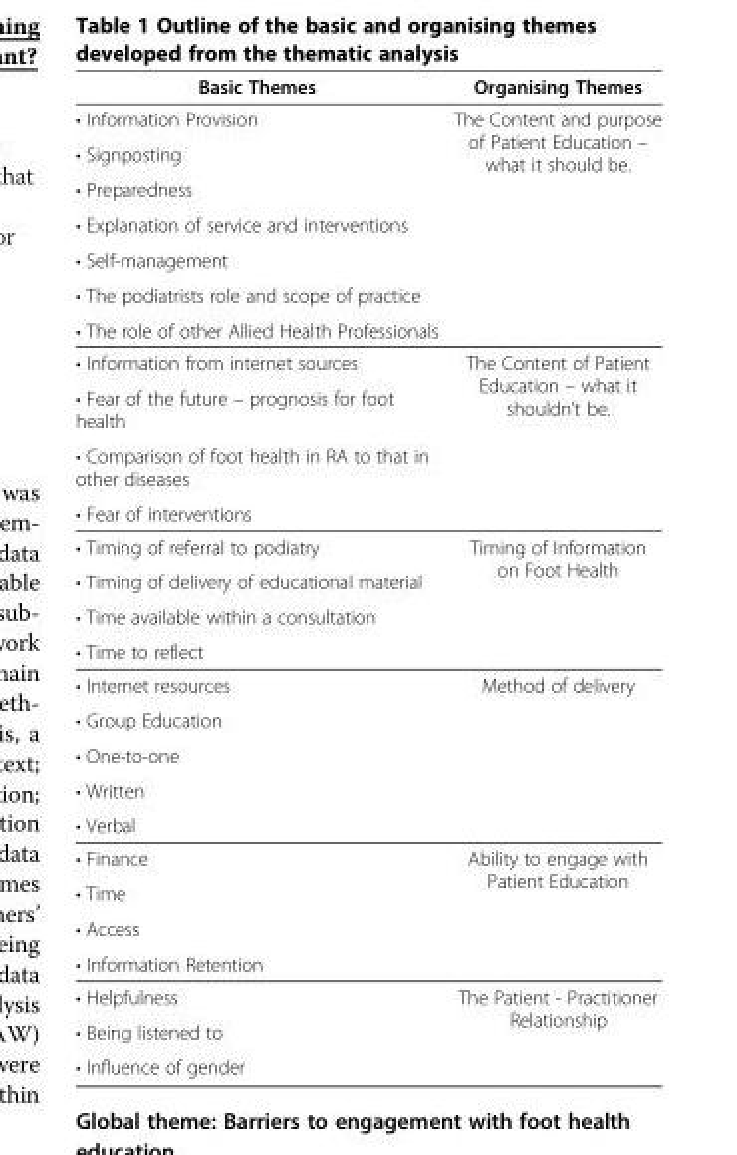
<table><thead><tr><td>Basic Themes</td><td>Organising Themes</td></tr></thead><tbody><tr><td>• Information Provision</td><td rowspan="7">The Content and purpose of Patient Education – what it should be.</td></tr><tr><td>• Signposting</td></tr><tr><td>• Preparedness</td></tr><tr><td>• Explanation of service and interventions</td></tr><tr><td>• Self-management</td></tr><tr><td>• The podiatrists role and scope of practice</td></tr><tr><td>• The role of other Allied Health Professionals</td></tr><tr><td>• Information from internet sources</td><td rowspan="4">The Content of Patient Education – what it shouldn’t be.</td></tr><tr><td>• Fear of the future – prognosis for foot health</td></tr><tr><td>• Comparison of foot health in RA to that in other diseases</td></tr><tr><td>• Fear of interventions</td></tr><tr><td>• Timing of referral to podiatry</td><td rowspan="4">Timing of Information on Foot Health</td></tr><tr><td>• Timing of delivery of educational material</td></tr><tr><td>• Time available within a consultation</td></tr><tr><td>• Time to reflect</td></tr><tr><td>• Internet resources</td><td rowspan="5">Method of delivery</td></tr><tr><td>• Group Education</td></tr><tr><td>• One-to-one</td></tr><tr><td>• Written</td></tr><tr><td>• Verbal</td></tr><tr><td>• Finance</td><td rowspan="4">Ability to engage with Patient Education</td></tr><tr><td>• Time</td></tr><tr><td>• Access</td></tr><tr><td>• Information Retention</td></tr><tr><td>• Helpfulness</td><td rowspan="3">The Patient - Practitioner Relationship</td></tr><tr><td>• Being listened to</td></tr><tr><td>• Influence of gender</td></tr></tbody></table>